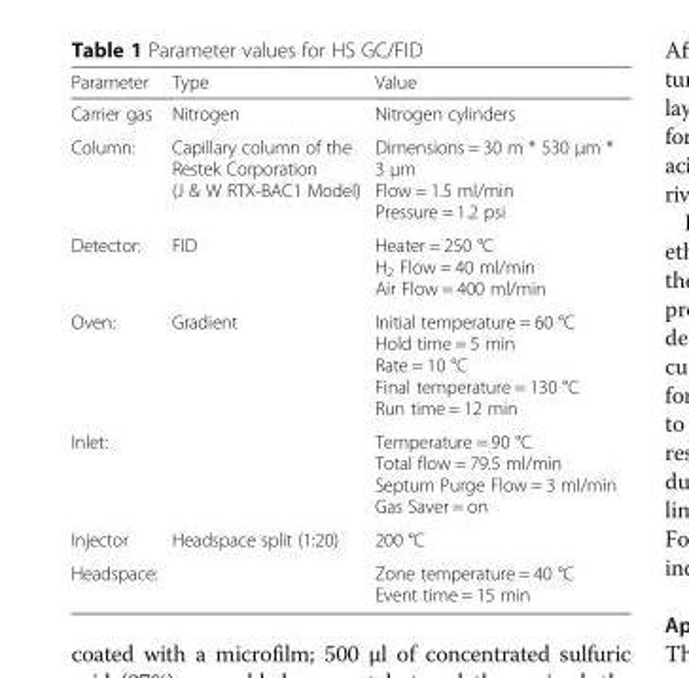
<table><thead><tr><td>Parameter</td><td>Type</td><td>Value</td></tr></thead><tbody><tr><td>Carrier gas</td><td>Nitrogen</td><td>Nitrogen cylinders</td></tr><tr><td>Column:</td><td>Capillary column of the Restek Corporation (J &amp; W RTX-BAC1 Model)</td><td>Dimensions = 30 m * 530 μm * 3 μm Flow = 1.5 ml/min Pressure = 1.2 psi</td></tr><tr><td>Detector:</td><td>FID</td><td>Heater = 250 °C H<sub>2</sub> Flow = 40 ml/min Air Flow = 400 ml/min</td></tr><tr><td>Oven:</td><td>Gradient</td><td>Initial temperature = 60 °C Hold time = 5 min Rate = 10 °C Final temperature = 130 °C Run time = 12 min</td></tr><tr><td>Inlet:</td><td></td><td>Temperature = 90 °C Total flow = 79.5 ml/min Septum Purge Flow = 3 ml/min Gas Saver = on</td></tr><tr><td>Injector</td><td>Headspace split (1:20)</td><td>200 °C</td></tr><tr><td>Headspace:</td><td></td><td>Zone temperature = 40 °C Event time = 15 min</td></tr></tbody></table>